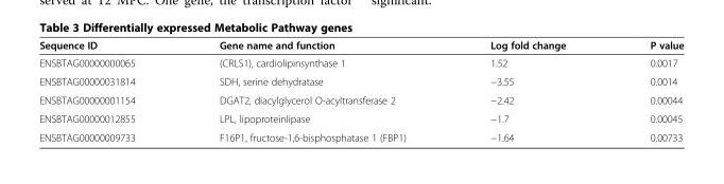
<table><thead><tr><td>Sequence ID</td><td>Gene name and function</td><td>Log fold change</td><td>P value</td></tr></thead><tbody><tr><td>ENSBTAG00000000065</td><td>(CRLS1), cardiolipinsynthase 1</td><td>1.52</td><td>0.0017</td></tr><tr><td>ENSBTAG00000031814</td><td>SDH, serine dehydratase</td><td>−3.55</td><td>0.0014</td></tr><tr><td>ENSBTAG00000001154</td><td>DGAT2, diacylglycerol O-acyltransferase 2</td><td>−2.42</td><td>0.00044</td></tr><tr><td>ENSBTAG00000012855</td><td>LPL, lipoproteinlipase</td><td>−1.7</td><td>0.00045</td></tr><tr><td>ENSBTAG00000009733</td><td>F16P1, fructose-1,6-bisphosphatase 1 (FBP1)</td><td>−1.64</td><td>0.00733</td></tr></tbody></table>